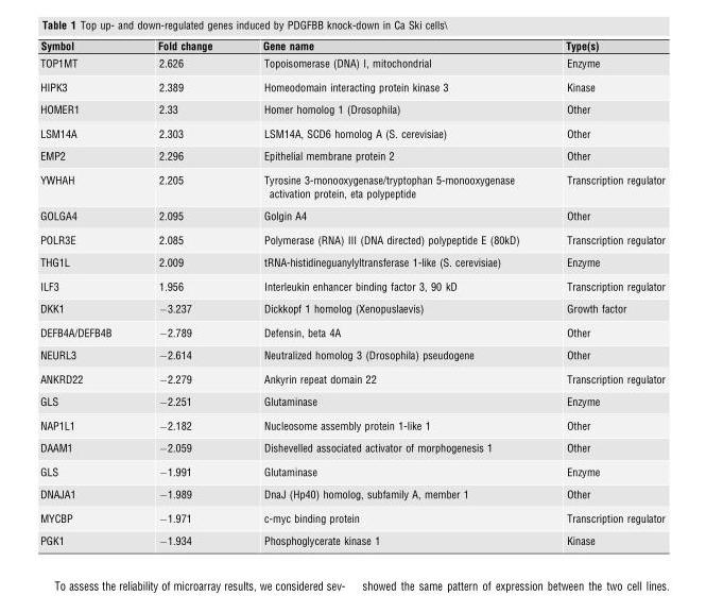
<table><thead><tr><td>Symbol</td><td>Fold change</td><td>Gene name</td><td>Type(s)</td></tr></thead><tbody><tr><td>TOP1MT</td><td>2.626</td><td>Topoisomerase (DNA) I, mitochondrial</td><td>Enzyme</td></tr><tr><td>HIPK3</td><td>2.389</td><td>Homeodomain interacting protein kinase 3</td><td>Kinase</td></tr><tr><td>HOMER1</td><td>2.33</td><td>Homer homolog 1 (Drosophila)</td><td>Other</td></tr><tr><td>LSM14A</td><td>2.303</td><td>LSM14A, SCD6 homolog A (S. cerevisiae)</td><td>Other</td></tr><tr><td>EMP2</td><td>2.296</td><td>Epithelial membrane protein 2</td><td>Other</td></tr><tr><td>YWHAH</td><td>2.205</td><td>Tyrosine 3-monooxygenase/tryptophan 5-monooxygenase activation protein, eta polypeptide</td><td>Transcription regulator</td></tr><tr><td>GOLGA4</td><td>2.095</td><td>Golgin A4</td><td>Other</td></tr><tr><td>POLR3E</td><td>2.085</td><td>Polymerase (RNA) III (DNA directed) polypeptide E (80kD)</td><td>Transcription regulator</td></tr><tr><td>THG1L</td><td>2.009</td><td>tRNA-histidineguanylyltransferase 1-like (S. cerevisiae)</td><td>Enzyme</td></tr><tr><td>ILF3</td><td>1.956</td><td>Interleukin enhancer binding factor 3, 90 kD</td><td>Transcription regulator</td></tr><tr><td>DKK1</td><td>−3.237</td><td>Dickkopf 1 homolog (Xenopuslaevis)</td><td>Growth factor</td></tr><tr><td>DEFB4A/DEFB4B</td><td>−2.789</td><td>Defensin, beta 4A</td><td>Other</td></tr><tr><td>NEURL3</td><td>−2.614</td><td>Neutralized homolog 3 (Drosophila) pseudogene</td><td>Other</td></tr><tr><td>ANKRD22</td><td>−2.279</td><td>Ankyrin repeat domain 22</td><td>Transcription regulator</td></tr><tr><td>GLS</td><td>−2.251</td><td>Glutaminase</td><td>Enzyme</td></tr><tr><td>NAP1L1</td><td>−2.182</td><td>Nucleosome assembly protein 1-like 1</td><td>Other</td></tr><tr><td>DAAM1</td><td>−2.059</td><td>Dishevelled associated activator of morphogenesis 1</td><td>Other</td></tr><tr><td>GLS</td><td>−1.991</td><td>Glutaminase</td><td>Enzyme</td></tr><tr><td>DNAJA1</td><td>−1.989</td><td>DnaJ (Hp40) homolog, subfamily A, member 1</td><td>Other</td></tr><tr><td>MYCBP</td><td>−1.971</td><td>c-myc binding protein</td><td>Transcription regulator</td></tr><tr><td>PGK1</td><td>−1.934</td><td>Phosphoglycerate kinase 1</td><td>Kinase</td></tr></tbody></table>